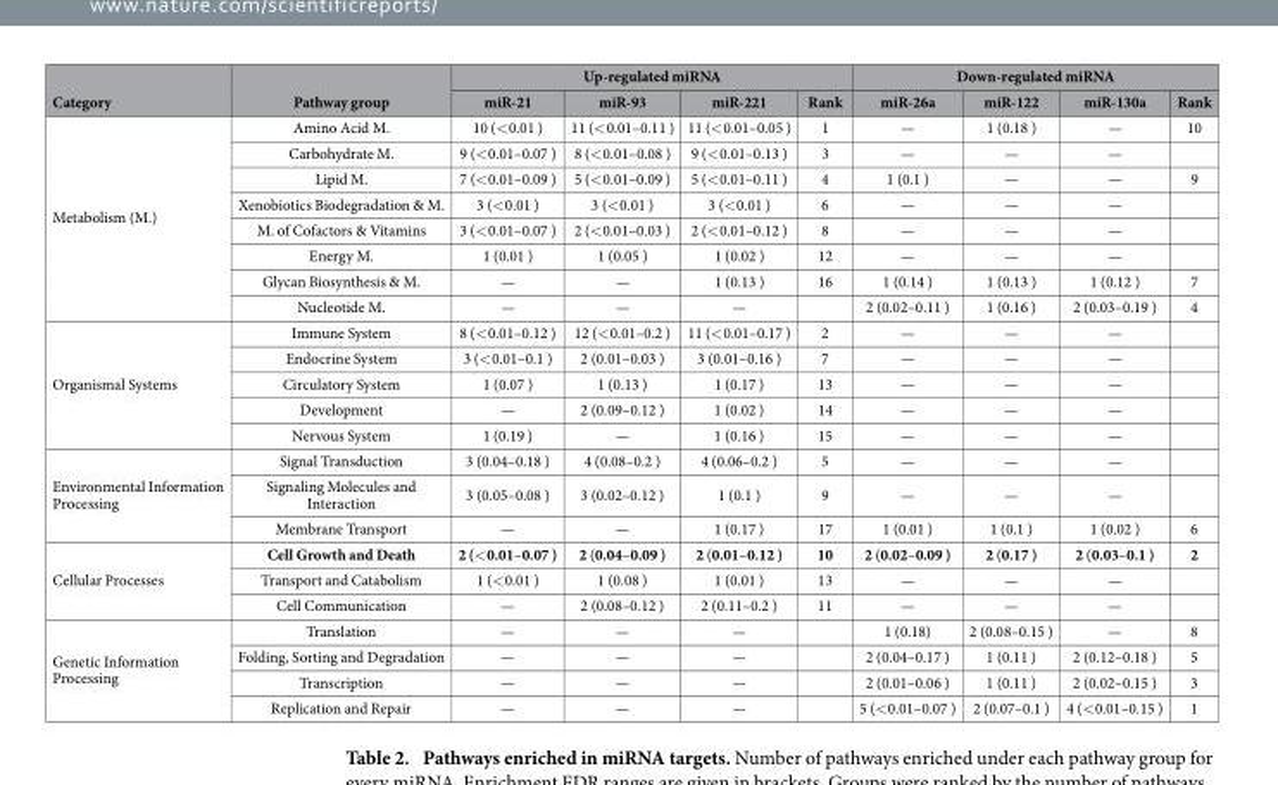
<table><thead><tr><td rowspan="2">Category</td><td rowspan="2">Pathway group</td><td colspan="4">Up-regulated miRNA</td><td colspan="4">Down-regulated miRNA</td></tr><tr><td>miR-21</td><td>miR-93</td><td>miR-221</td><td>Rank</td><td>miR-26a</td><td>miR-122</td><td>miR-130a</td><td>Rank</td></tr></thead><tbody><tr><td rowspan="8">Metabolism (M.)</td><td>Amino Acid M.</td><td>10 (&lt; 0.01 )</td><td>11 (&lt; 0.01–0.11 )</td><td>11 (&lt; 0.01–0.05 )</td><td>1</td><td>—</td><td>1 (0.18 )</td><td>—</td><td>10</td></tr><tr><td>Carbohydrate M.</td><td>9 (&lt; 0.01–0.07 )</td><td>8 (&lt; 0.01–0.08 )</td><td>9 (&lt; 0.01–0.13 )</td><td>3</td><td>—</td><td>—</td><td>—</td><td></td></tr><tr><td>Lipid M.</td><td>7 (&lt; 0.01–0.09 )</td><td>5 (&lt; 0.01–0.09 )</td><td>5 (&lt; 0.01–0.11 )</td><td>4</td><td>1 (0.1 )</td><td>—</td><td>—</td><td>9</td></tr><tr><td>Xenobiotics Biodegradation &amp; M.</td><td>3 (&lt; 0.01 )</td><td>3 (&lt; 0.01 )</td><td>3 (&lt; 0.01 )</td><td>6</td><td>—</td><td>—</td><td>—</td><td></td></tr><tr><td>M. of Cofactors &amp; Vitamins</td><td>3 (&lt; 0.01–0.07 )</td><td>2 (&lt; 0.01–0.03 )</td><td>2 (&lt; 0.01–0.12 )</td><td>8</td><td>—</td><td>—</td><td>—</td><td></td></tr><tr><td>Energy M.</td><td>1 (0.01 )</td><td>1 (0.05 )</td><td>1 (0.02 )</td><td>12</td><td>—</td><td>—</td><td>—</td><td></td></tr><tr><td>Glycan Biosynthesis &amp; M.</td><td>—</td><td>—</td><td>1 (0.13 )</td><td>16</td><td>1 (0.14 )</td><td>1 (0.13 )</td><td>1 (0.12 )</td><td>7</td></tr><tr><td>Nucleotide M.</td><td>—</td><td>—</td><td>—</td><td></td><td>2 (0.02–0.11 )</td><td>1 (0.16 )</td><td>2 (0.03–0.19 )</td><td>4</td></tr><tr><td rowspan="5">Organismal Systems</td><td>Immune System</td><td>8 (&lt; 0.01–0.12 )</td><td>12 (&lt; 0.01–0.2 )</td><td>11 (&lt; 0.01–0.17 )</td><td>2</td><td>—</td><td>—</td><td>—</td><td></td></tr><tr><td>Endocrine System</td><td>3 (&lt; 0.01–0.1 )</td><td>2 (0.01–0.03 )</td><td>3 (0.01–0.16 )</td><td>7</td><td>—</td><td>—</td><td>—</td><td></td></tr><tr><td>Circulatory System</td><td>1 (0.07 )</td><td>1 (0.13 )</td><td>1 (0.17 )</td><td>13</td><td>—</td><td>—</td><td>—</td><td></td></tr><tr><td>Development</td><td>—</td><td>2 (0.09–0.12 )</td><td>1 (0.02 )</td><td>14</td><td>—</td><td>—</td><td>—</td><td></td></tr><tr><td>Nervous System</td><td>1 (0.19 )</td><td>—</td><td>1 (0.16 )</td><td>15</td><td>—</td><td>—</td><td>—</td><td></td></tr><tr><td rowspan="3">Environmental Information Processing</td><td>Signal Transduction</td><td>3 (0.04–0.18 )</td><td>4 (0.08–0.2 )</td><td>4 (0.06–0.2 )</td><td>5</td><td>—</td><td>—</td><td>—</td><td></td></tr><tr><td>Signaling Molecules and Interaction</td><td>3 (0.05–0.08 )</td><td>3 (0.02–0.12 )</td><td>1 (0.1 )</td><td>9</td><td>—</td><td>—</td><td>—</td><td></td></tr><tr><td>Membrane Transport</td><td>—</td><td>—</td><td>1 (0.17 )</td><td>17</td><td>1 (0.01 )</td><td>1 (0.1 )</td><td>1 (0.02 )</td><td>6</td></tr><tr><td rowspan="3">Cellular Processes</td><td>Cell Growth and Death</td><td>2 (&lt; 0.01–0.07 )</td><td>2 (0.04–0.09 )</td><td>2 (0.01–0.12 )</td><td>10</td><td>2 (0.02–0.09 )</td><td>2 (0.17 )</td><td>2 (0.03–0.1 )</td><td>2</td></tr><tr><td>Transport and Catabolism</td><td>1 (&lt; 0.01 )</td><td>1 (0.08 )</td><td>1 (0.01 )</td><td>13</td><td>—</td><td>—</td><td>—</td><td></td></tr><tr><td>Cell Communication</td><td>—</td><td>2 (0.08–0.12 )</td><td>2 (0.11–0.2 )</td><td>11</td><td>—</td><td>—</td><td>—</td><td></td></tr><tr><td rowspan="4">Genetic Information Processing</td><td>Translation</td><td>—</td><td>—</td><td>—</td><td></td><td>1 (0.18)</td><td>2 (0.08–0.15 )</td><td>—</td><td>8</td></tr><tr><td>Folding, Sorting and Degradation</td><td>—</td><td>—</td><td>—</td><td></td><td>2 (0.04–0.17 )</td><td>1 (0.11 )</td><td>2 (0.12–0.18 )</td><td>5</td></tr><tr><td>Transcription</td><td>—</td><td>—</td><td>—</td><td></td><td>2 (0.01–0.06 )</td><td>1 (0.11 )</td><td>2 (0.02–0.15 )</td><td>3</td></tr><tr><td>Replication and Repair</td><td>—</td><td>—</td><td>—</td><td></td><td>5 (&lt; 0.01–0.07 )</td><td>2 (0.07–0.1 )</td><td>4 (&lt; 0.01–0.15 )</td><td>1</td></tr></tbody></table>